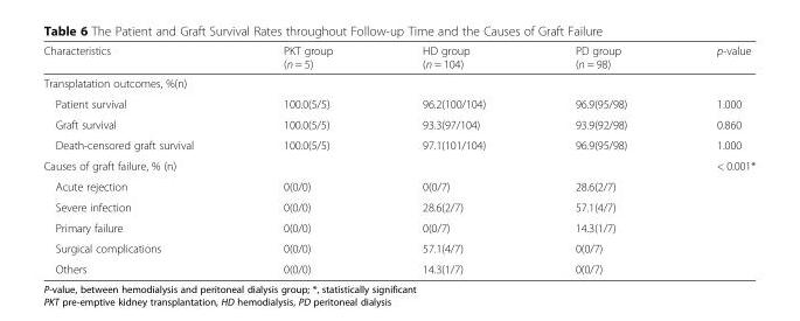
<table><thead><tr><td>Characteristics</td><td>PKT group (n = 5)</td><td>HD group (n = 104)</td><td>PD group (n = 98)</td><td>p-value</td></tr></thead><tbody><tr><td colspan="5">Transplatation outcomes, %(n)</td></tr><tr><td>Patient survival</td><td>100.0(5/5)</td><td>96.2(100/104)</td><td>96.9(95/98)</td><td>1.000</td></tr><tr><td>Graft survival</td><td>100.0(5/5)</td><td>93.3(97/104)</td><td>93.9(92/98)</td><td>0.860</td></tr><tr><td>Death-censored graft survival</td><td>100.0(5/5)</td><td>97.1(101/104)</td><td>96.9(95/98)</td><td>1.000</td></tr><tr><td>Causes of graft failure, % (n)</td><td></td><td></td><td></td><td>&lt; 0.001*</td></tr><tr><td>Acute rejection</td><td>0(0/0)</td><td>0(0/7)</td><td>28.6(2/7)</td><td></td></tr><tr><td>Severe infection</td><td>0(0/0)</td><td>28.6(2/7)</td><td>57.1(4/7)</td><td></td></tr><tr><td>Primary failure</td><td>0(0/0)</td><td>0(0/7)</td><td>14.3(1/7)</td><td></td></tr><tr><td>Surgical complications</td><td>0(0/0)</td><td>57.1(4/7)</td><td>0(0/7)</td><td></td></tr><tr><td>Others</td><td>0(0/0)</td><td>14.3(1/7)</td><td>0(0/7)</td><td></td></tr></tbody></table>